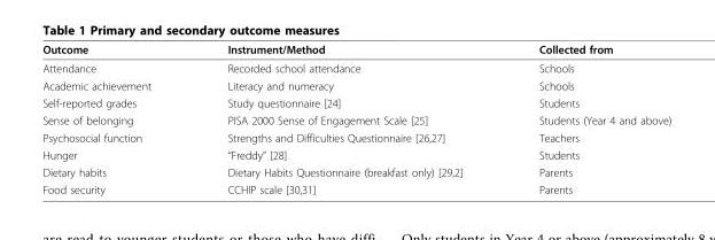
<table><thead><tr><td>Outcome</td><td>Instrument/Method</td><td>Collected from</td></tr></thead><tbody><tr><td>Attendance</td><td>Recorded school attendance</td><td>Schools</td></tr><tr><td>Academic achievement</td><td>Literacy and numeracy</td><td>Schools</td></tr><tr><td>Self-reported grades</td><td>Study questionnaire [24]</td><td>Students</td></tr><tr><td>Sense of belonging</td><td>PISA 2000 Sense of Engagement Scale [25]</td><td>Students (Year 4 and above)</td></tr><tr><td>Psychosocial function</td><td>Strengths and Difficulties Questionnaire [26,27]</td><td>Teachers</td></tr><tr><td>Hunger</td><td>“Freddy” [28]</td><td>Students</td></tr><tr><td>Dietary habits</td><td>Dietary Habits Questionnaire (breakfast only) [29,2]</td><td>Parents</td></tr><tr><td>Food security</td><td>CCHIP scale [30,31]</td><td>Parents</td></tr></tbody></table>